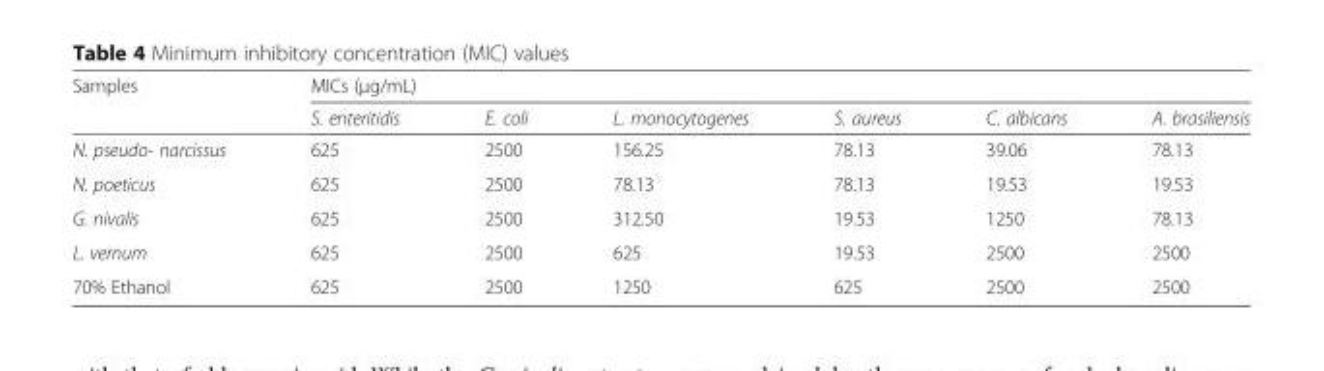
<table><thead><tr><td rowspan="2">Samples</td><td colspan="6">MICs (μg/mL)</td></tr><tr><td>S. enteritidis</td><td>E. coli</td><td>L. monocytogenes</td><td>S. aureus</td><td>C. albicans</td><td>A. brasiliensis</td></tr></thead><tbody><tr><td>N. pseudo- narcissus</td><td>625</td><td>2500</td><td>156.25</td><td>78.13</td><td>39.06</td><td>78.13</td></tr><tr><td>N. poeticus</td><td>625</td><td>2500</td><td>78.13</td><td>78.13</td><td>19.53</td><td>19.53</td></tr><tr><td>G. nivalis</td><td>625</td><td>2500</td><td>312.50</td><td>19.53</td><td>1250</td><td>78.13</td></tr><tr><td>L. vernum</td><td>625</td><td>2500</td><td>625</td><td>19.53</td><td>2500</td><td>2500</td></tr><tr><td>70% Ethanol</td><td>625</td><td>2500</td><td>1250</td><td>625</td><td>2500</td><td>2500</td></tr></tbody></table>